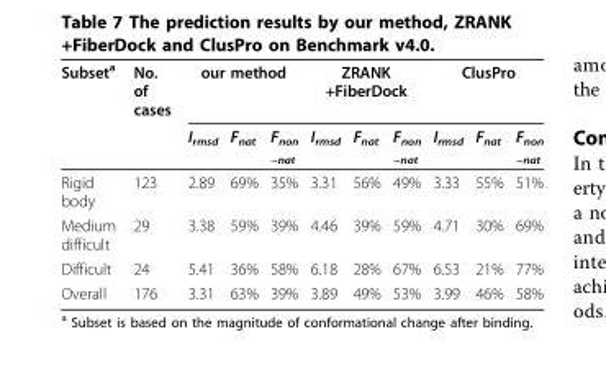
<table><thead><tr><td rowspan="2">Subset<sup>a</sup></td><td rowspan="2">No. of cases</td><td colspan="3">our method</td><td colspan="3">ZRANK +FiberDock</td><td colspan="3">ClusPro</td></tr><tr><td>I<sub>rmsd</sub></td><td>F<sub>nat</sub></td><td>F<sub>non −nat</sub></td><td>I<sub>rmsd</sub></td><td>F<sub>nat</sub></td><td>F<sub>non −nat</sub></td><td>I<sub>rmsd</sub></td><td>F<sub>nat</sub></td><td>F<sub>non −nat</sub></td></tr></thead><tbody><tr><td>Rigid body</td><td>123</td><td>2.89</td><td>69%</td><td>35%</td><td>3.31</td><td>56%</td><td>49%</td><td>3.33</td><td>55%</td><td>51%</td></tr><tr><td>Medium difficult</td><td>29</td><td>3.38</td><td>59%</td><td>39%</td><td>4.46</td><td>39%</td><td>59%</td><td>4.71</td><td>30%</td><td>69%</td></tr><tr><td>Difficult</td><td>24</td><td>5.41</td><td>36%</td><td>58%</td><td>6.18</td><td>28%</td><td>67%</td><td>6.53</td><td>21%</td><td>77%</td></tr><tr><td>Overall</td><td>176</td><td>3.31</td><td>63%</td><td>39%</td><td>3.89</td><td>49%</td><td>53%</td><td>3.99</td><td>46%</td><td>58%</td></tr></tbody></table>